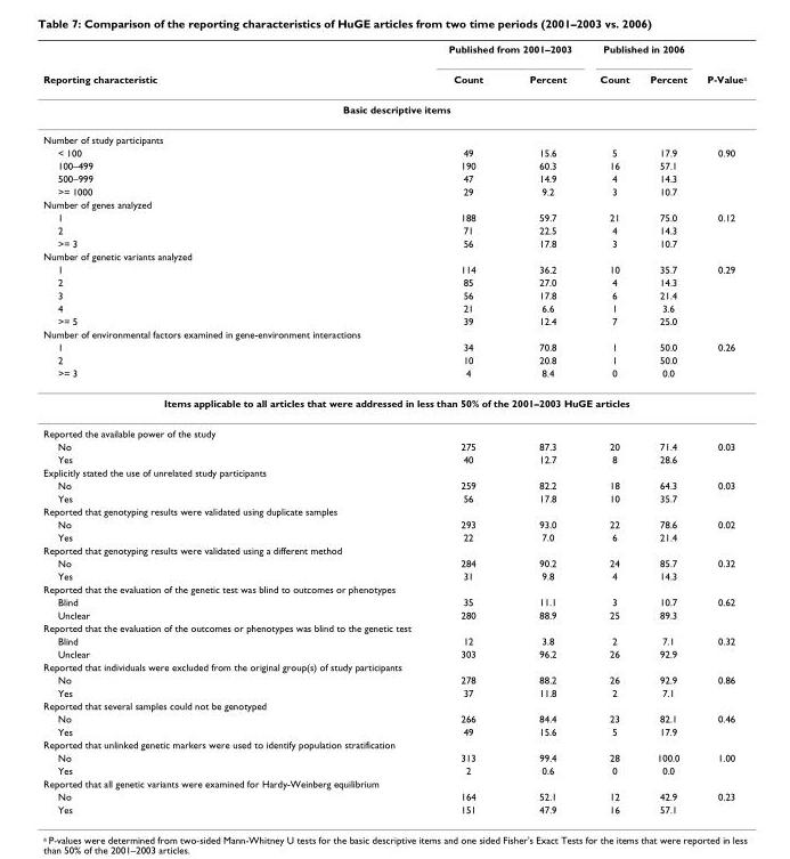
<table><thead><tr><td rowspan="2">Reporting characteristic</td><td colspan="2">Published from 2001–2003</td><td colspan="2">Published in 2006</td><td rowspan="2">P-Value<sup>a</sup></td></tr><tr><td>Count</td><td>Percent</td><td>Count</td><td>Percent</td></tr></thead><tbody><tr><td colspan="6">Basic descriptive items</td></tr><tr><td colspan="6">Number of study participants</td></tr><tr><td>&lt; 100</td><td>49</td><td>15.6</td><td>5</td><td>17.9</td><td>0.90</td></tr><tr><td>100–499</td><td>190</td><td>60.3</td><td>16</td><td>57.1</td><td></td></tr><tr><td>500–999</td><td>47</td><td>14.9</td><td>4</td><td>14.3</td><td></td></tr><tr><td>&gt;= 1000</td><td>29</td><td>9.2</td><td>3</td><td>10.7</td><td></td></tr><tr><td colspan="6">Number of genes analyzed</td></tr><tr><td>1</td><td>188</td><td>59.7</td><td>21</td><td>75.0</td><td>0.12</td></tr><tr><td>2</td><td>71</td><td>22.5</td><td>4</td><td>14.3</td><td></td></tr><tr><td>&gt;= 3</td><td>56</td><td>17.8</td><td>3</td><td>10.7</td><td></td></tr><tr><td colspan="6">Number of genetic variants analyzed</td></tr><tr><td>1</td><td>114</td><td>36.2</td><td>10</td><td>35.7</td><td>0.29</td></tr><tr><td>2</td><td>85</td><td>27.0</td><td>4</td><td>14.3</td><td></td></tr><tr><td>3</td><td>56</td><td>17.8</td><td>6</td><td>21.4</td><td></td></tr><tr><td>4</td><td>21</td><td>6.6</td><td>1</td><td>3.6</td><td></td></tr><tr><td>&gt;= 5</td><td>39</td><td>12.4</td><td>7</td><td>25.0</td><td></td></tr><tr><td colspan="6">Number of environmental factors examined in gene-environment interactions</td></tr><tr><td>1</td><td>34</td><td>70.8</td><td>1</td><td>50.0</td><td>0.26</td></tr><tr><td>2</td><td>10</td><td>20.8</td><td>1</td><td>50.0</td><td></td></tr><tr><td>&gt;= 3</td><td>4</td><td>8.4</td><td>0</td><td>0.0</td><td></td></tr><tr><td colspan="6">Items applicable to all articles that were addressed in less than 50% of the 2001–2003 HuGE articles</td></tr><tr><td colspan="6">Reported the available power of the study</td></tr><tr><td>No</td><td>275</td><td>87.3</td><td>20</td><td>71.4</td><td>0.03</td></tr><tr><td>Yes</td><td>40</td><td>12.7</td><td>8</td><td>28.6</td><td></td></tr><tr><td colspan="6">Explicitly stated the use of unrelated study participants</td></tr><tr><td>No</td><td>259</td><td>82.2</td><td>18</td><td>64.3</td><td>0.03</td></tr><tr><td>Yes</td><td>56</td><td>17.8</td><td>10</td><td>35.7</td><td></td></tr><tr><td colspan="6">Reported that genotyping results were validated using duplicate samples</td></tr><tr><td>No</td><td>293</td><td>93.0</td><td>22</td><td>78.6</td><td>0.02</td></tr><tr><td>Yes</td><td>22</td><td>7.0</td><td>6</td><td>21.4</td><td></td></tr><tr><td colspan="6">Reported that genotyping results were validated using a different method</td></tr><tr><td>No</td><td>284</td><td>90.2</td><td>24</td><td>85.7</td><td>0.32</td></tr><tr><td>Yes</td><td>31</td><td>9.8</td><td>4</td><td>14.3</td><td></td></tr><tr><td colspan="6">Reported that the evaluation of the genetic test was blind to outcomes or phenotypes</td></tr><tr><td>Blind</td><td>35</td><td>11.1</td><td>3</td><td>10.7</td><td>0.62</td></tr><tr><td>Unclear</td><td>280</td><td>88.9</td><td>25</td><td>89.3</td><td></td></tr><tr><td colspan="6">Reported that the evaluation of the outcomes or phenotypes was blind to the genetic test</td></tr><tr><td>Blind</td><td>12</td><td>3.8</td><td>2</td><td>7.1</td><td>0.32</td></tr><tr><td>Unclear</td><td>303</td><td>96.2</td><td>26</td><td>92.9</td><td></td></tr><tr><td colspan="6">Reported that individuals were excluded from the original group(s) of study participants</td></tr><tr><td>No</td><td>278</td><td>88.2</td><td>26</td><td>92.9</td><td>0.86</td></tr><tr><td>Yes</td><td>37</td><td>11.8</td><td>2</td><td>7.1</td><td></td></tr><tr><td colspan="6">Reported that several samples could not be genotyped</td></tr><tr><td>No</td><td>266</td><td>84.4</td><td>23</td><td>82.1</td><td>0.46</td></tr><tr><td>Yes</td><td>49</td><td>15.6</td><td>5</td><td>17.9</td><td></td></tr><tr><td colspan="6">Reported that unlinked genetic markers were used to identify population stratification</td></tr><tr><td>No</td><td>313</td><td>99.4</td><td>28</td><td>100.0</td><td>1.00</td></tr><tr><td>Yes</td><td>2</td><td>0.6</td><td>0</td><td>0.0</td><td></td></tr><tr><td colspan="6">Reported that all genetic variants were examined for Hardy-Weinberg equilibrium</td></tr><tr><td>No</td><td>164</td><td>52.1</td><td>12</td><td>42.9</td><td>0.23</td></tr><tr><td>Yes</td><td>151</td><td>47.9</td><td>16</td><td>57.1</td><td></td></tr></tbody></table>